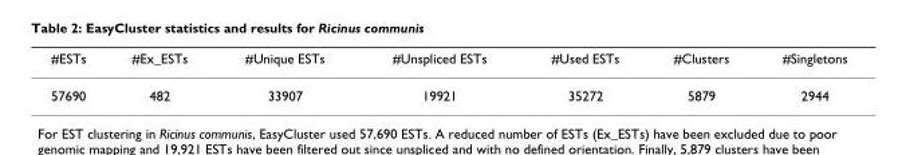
<table><thead><tr><td>#ESTs</td><td>#Ex_ESTs</td><td>#Unique ESTs</td><td>#Unspliced ESTs</td><td>#Used ESTs</td><td>#Clusters</td><td>#Singletons</td></tr></thead><tbody><tr><td>57690</td><td>482</td><td>33907</td><td>19921</td><td>35272</td><td>5879</td><td>2944</td></tr></tbody></table>